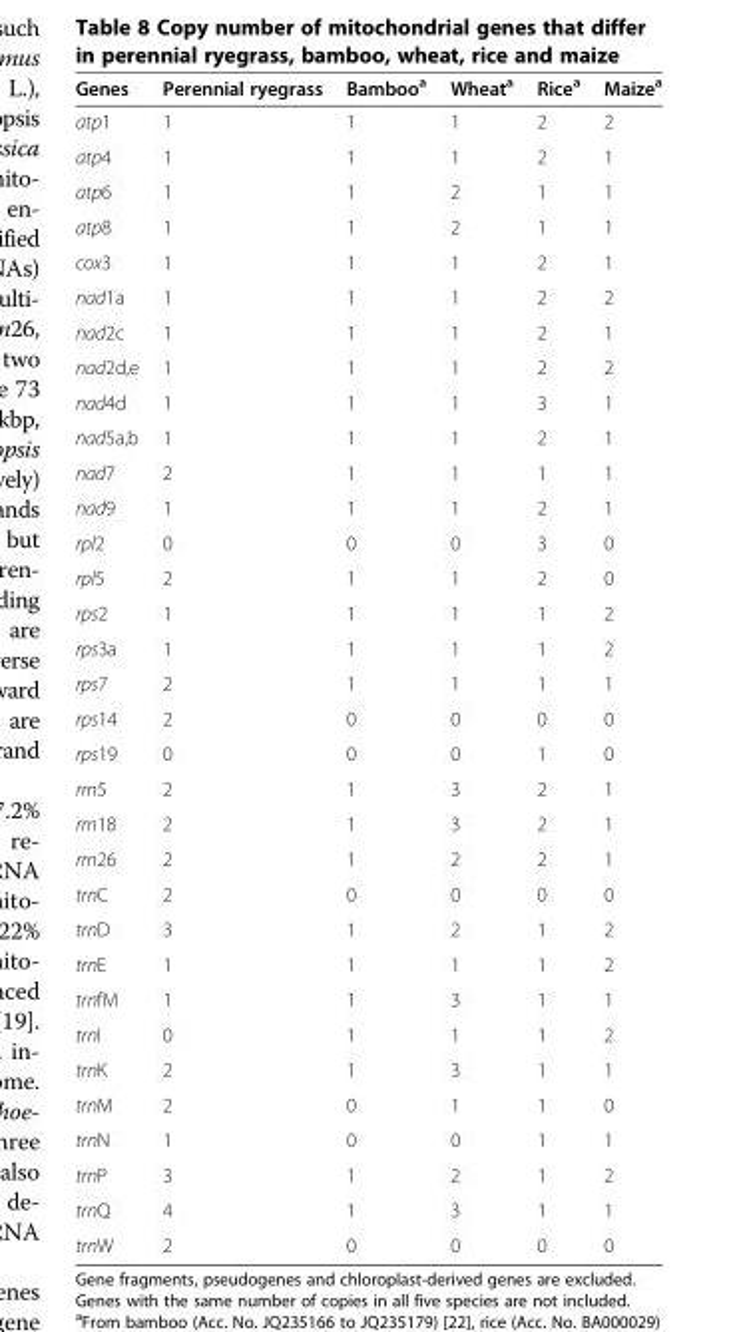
<table><thead><tr><td>Genes</td><td>Perennial ryegrass</td><td>Bamboo<sup>a</sup></td><td>Wheat<sup>a</sup></td><td>Rice<sup>a</sup></td><td>Maize<sup>a</sup></td></tr></thead><tbody><tr><td>atp1</td><td>1</td><td>1</td><td>1</td><td>2</td><td>2</td></tr><tr><td>atp4</td><td>1</td><td>1</td><td>1</td><td>2</td><td>1</td></tr><tr><td>atp6</td><td>1</td><td>1</td><td>2</td><td>1</td><td>1</td></tr><tr><td>atp8</td><td>1</td><td>1</td><td>2</td><td>1</td><td>1</td></tr><tr><td>cox3</td><td>1</td><td>1</td><td>1</td><td>2</td><td>1</td></tr><tr><td>nad1a</td><td>1</td><td>1</td><td>1</td><td>2</td><td>2</td></tr><tr><td>nad2c</td><td>1</td><td>1</td><td>1</td><td>2</td><td>1</td></tr><tr><td>nad2d,e</td><td>1</td><td>1</td><td>1</td><td>2</td><td>2</td></tr><tr><td>nad4d</td><td>1</td><td>1</td><td>1</td><td>3</td><td>1</td></tr><tr><td>nad5a,b</td><td>1</td><td>1</td><td>1</td><td>2</td><td>1</td></tr><tr><td>nad7</td><td>2</td><td>1</td><td>1</td><td>1</td><td>1</td></tr><tr><td>nad9</td><td>1</td><td>1</td><td>1</td><td>2</td><td>1</td></tr><tr><td>rpl2</td><td>0</td><td>0</td><td>0</td><td>3</td><td>0</td></tr><tr><td>rpl5</td><td>2</td><td>1</td><td>1</td><td>2</td><td>0</td></tr><tr><td>rps2</td><td>1</td><td>1</td><td>1</td><td>1</td><td>2</td></tr><tr><td>rps3a</td><td>1</td><td>1</td><td>1</td><td>1</td><td>2</td></tr><tr><td>rps7</td><td>2</td><td>1</td><td>1</td><td>1</td><td>1</td></tr><tr><td>rps14</td><td>2</td><td>0</td><td>0</td><td>0</td><td>0</td></tr><tr><td>rps19</td><td>0</td><td>0</td><td>0</td><td>1</td><td>0</td></tr><tr><td>rrn5</td><td>2</td><td>1</td><td>3</td><td>2</td><td>1</td></tr><tr><td>rrn18</td><td>2</td><td>1</td><td>3</td><td>2</td><td>1</td></tr><tr><td>rrn26</td><td>2</td><td>1</td><td>2</td><td>2</td><td>1</td></tr><tr><td>trnC</td><td>2</td><td>0</td><td>0</td><td>0</td><td>0</td></tr><tr><td>trnD</td><td>3</td><td>1</td><td>2</td><td>1</td><td>2</td></tr><tr><td>trnE</td><td>1</td><td>1</td><td>1</td><td>1</td><td>2</td></tr><tr><td>trnfM</td><td>1</td><td>1</td><td>3</td><td>1</td><td>1</td></tr><tr><td>trnI</td><td>0</td><td>1</td><td>1</td><td>1</td><td>2</td></tr><tr><td>trnK</td><td>2</td><td>1</td><td>3</td><td>1</td><td>1</td></tr><tr><td>trnM</td><td>2</td><td>0</td><td>1</td><td>1</td><td>0</td></tr><tr><td>trnN</td><td>1</td><td>0</td><td>0</td><td>1</td><td>1</td></tr><tr><td>trnP</td><td>3</td><td>1</td><td>2</td><td>1</td><td>2</td></tr><tr><td>trnQ</td><td>4</td><td>1</td><td>3</td><td>1</td><td>1</td></tr><tr><td>trnW</td><td>2</td><td>0</td><td>0</td><td>0</td><td>0</td></tr></tbody></table>